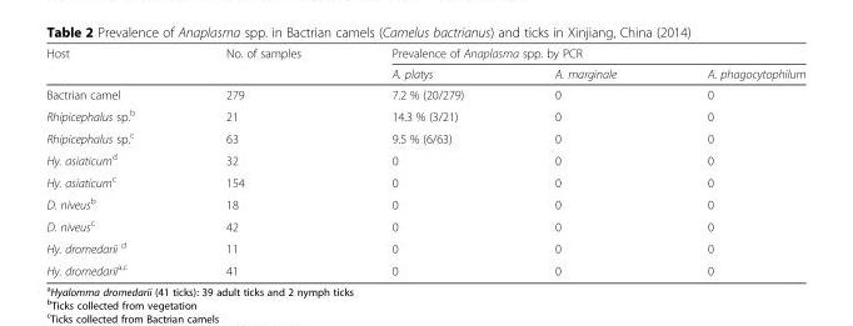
<table><thead><tr><td rowspan="2">Host</td><td rowspan="2">No. of samples</td><td colspan="3">Prevalence of Anaplasma spp. by PCR</td></tr><tr><td>A. platys</td><td>A. marginale</td><td>A. phagocytophilum</td></tr></thead><tbody><tr><td>Bactrian camel</td><td>279</td><td>7.2 % (20/279)</td><td>0</td><td>0</td></tr><tr><td>Rhipicephalus sp.<sup>b</sup></td><td>21</td><td>14.3 % (3/21)</td><td>0</td><td>0</td></tr><tr><td>Rhipicephalus sp.<sup>c</sup></td><td>63</td><td>9.5 % (6/63)</td><td>0</td><td>0</td></tr><tr><td>Hy. asiaticum<sup>d</sup></td><td>32</td><td>0</td><td>0</td><td>0</td></tr><tr><td>Hy. asiaticum<sup>c</sup></td><td>154</td><td>0</td><td>0</td><td>0</td></tr><tr><td>D. niveus<sup>b</sup></td><td>18</td><td>0</td><td>0</td><td>0</td></tr><tr><td>D. niveus<sup>c</sup></td><td>42</td><td>0</td><td>0</td><td>0</td></tr><tr><td>Hy. dromedarii <sup>d</sup></td><td>11</td><td>0</td><td>0</td><td>0</td></tr><tr><td>Hy. dromedarii<sup>a,c</sup></td><td>41</td><td>0</td><td>0</td><td>0</td></tr></tbody></table>